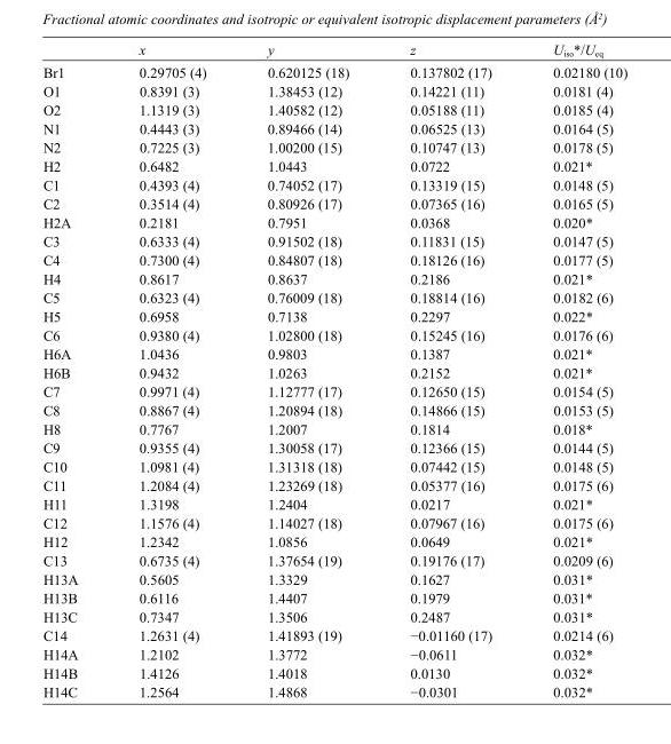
<table><thead><tr><td></td><td>x</td><td>y</td><td>z</td><td>U<sub>iso</sub>*/U<sub>eq</sub></td></tr></thead><tbody><tr><td>Br1</td><td>0.29705 (4)</td><td>0.620125 (18)</td><td>0.137802 (17)</td><td>0.02180 (10)</td></tr><tr><td>O1</td><td>0.8391 (3)</td><td>1.38453 (12)</td><td>0.14221 (11)</td><td>0.0181 (4)</td></tr><tr><td>O2</td><td>1.1319 (3)</td><td>1.40582 (12)</td><td>0.05188 (11)</td><td>0.0185 (4)</td></tr><tr><td>N1</td><td>0.4443 (3)</td><td>0.89466 (14)</td><td>0.06525 (13)</td><td>0.0164 (5)</td></tr><tr><td>N2</td><td>0.7225 (3)</td><td>1.00200 (15)</td><td>0.10747 (13)</td><td>0.0178 (5)</td></tr><tr><td>H2</td><td>0.6482</td><td>1.0443</td><td>0.0722</td><td>0.021*</td></tr><tr><td>C1</td><td>0.4393 (4)</td><td>0.74052 (17)</td><td>0.13319 (15)</td><td>0.0148 (5)</td></tr><tr><td>C2</td><td>0.3514 (4)</td><td>0.80926 (17)</td><td>0.07365 (16)</td><td>0.0165 (5)</td></tr><tr><td>H2A</td><td>0.2181</td><td>0.7951</td><td>0.0368</td><td>0.020*</td></tr><tr><td>C3</td><td>0.6333 (4)</td><td>0.91502 (18)</td><td>0.11831 (15)</td><td>0.0147 (5)</td></tr><tr><td>C4</td><td>0.7300 (4)</td><td>0.84807 (18)</td><td>0.18126 (16)</td><td>0.0177 (5)</td></tr><tr><td>H4</td><td>0.8617</td><td>0.8637</td><td>0.2186</td><td>0.021*</td></tr><tr><td>C5</td><td>0.6323 (4)</td><td>0.76009 (18)</td><td>0.18814 (16)</td><td>0.0182 (6)</td></tr><tr><td>H5</td><td>0.6958</td><td>0.7138</td><td>0.2297</td><td>0.022*</td></tr><tr><td>C6</td><td>0.9380 (4)</td><td>1.02800 (18)</td><td>0.15245 (16)</td><td>0.0176 (6)</td></tr><tr><td>H6A</td><td>1.0436</td><td>0.9803</td><td>0.1387</td><td>0.021*</td></tr><tr><td>H6B</td><td>0.9432</td><td>1.0263</td><td>0.2152</td><td>0.021*</td></tr><tr><td>C7</td><td>0.9971 (4)</td><td>1.12777 (17)</td><td>0.12650 (15)</td><td>0.0154 (5)</td></tr><tr><td>C8</td><td>0.8867 (4)</td><td>1.20894 (18)</td><td>0.14866 (15)</td><td>0.0153 (5)</td></tr><tr><td>H8</td><td>0.7767</td><td>1.2007</td><td>0.1814</td><td>0.018*</td></tr><tr><td>C9</td><td>0.9355 (4)</td><td>1.30058 (17)</td><td>0.12366 (15)</td><td>0.0144 (5)</td></tr><tr><td>C10</td><td>1.0981 (4)</td><td>1.31318 (18)</td><td>0.07442 (15)</td><td>0.0148 (5)</td></tr><tr><td>C11</td><td>1.2084 (4)</td><td>1.23269 (18)</td><td>0.05377 (16)</td><td>0.0175 (6)</td></tr><tr><td>H11</td><td>1.3198</td><td>1.2404</td><td>0.0217</td><td>0.021*</td></tr><tr><td>C12</td><td>1.1576 (4)</td><td>1.14027 (18)</td><td>0.07967 (16)</td><td>0.0175 (6)</td></tr><tr><td>H12</td><td>1.2342</td><td>1.0856</td><td>0.0649</td><td>0.021*</td></tr><tr><td>C13</td><td>0.6735 (4)</td><td>1.37654 (19)</td><td>0.19176 (17)</td><td>0.0209 (6)</td></tr><tr><td>H13A</td><td>0.5605</td><td>1.3329</td><td>0.1627</td><td>0.031*</td></tr><tr><td>H13B</td><td>0.6116</td><td>1.4407</td><td>0.1979</td><td>0.031*</td></tr><tr><td>H13C</td><td>0.7347</td><td>1.3506</td><td>0.2487</td><td>0.031*</td></tr><tr><td>C14</td><td>1.2631 (4)</td><td>1.41893 (19)</td><td>−0.01160 (17)</td><td>0.0214 (6)</td></tr><tr><td>H14A</td><td>1.2102</td><td>1.3772</td><td>−0.0611</td><td>0.032*</td></tr><tr><td>H14B</td><td>1.4126</td><td>1.4018</td><td>0.0130</td><td>0.032*</td></tr><tr><td>H14C</td><td>1.2564</td><td>1.4868</td><td>−0.0301</td><td>0.032*</td></tr></tbody></table>